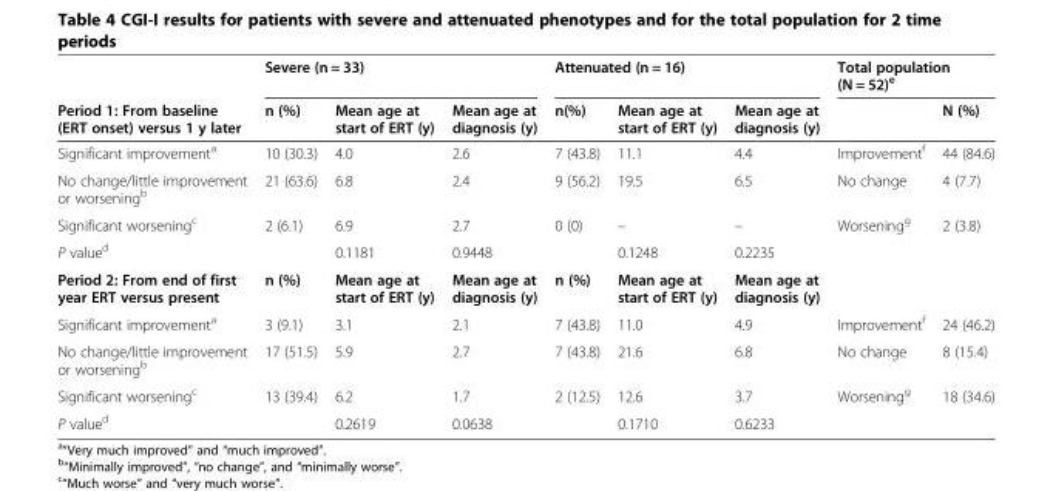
<table><thead><tr><td rowspan="2">Period 1: From baseline (ERT onset) versus 1 y later</td><td colspan="3">Severe (n = 33)</td><td colspan="3">Attenuated (n = 16)</td><td colspan="2">Total population (N = 52)<sup>e</sup></td></tr><tr><td>n (%)</td><td>Mean age at start of ERT (y)</td><td>Mean age at diagnosis (y)</td><td>n(%)</td><td>Mean age at start of ERT (y)</td><td>Mean age at diagnosis (y)</td><td></td><td>N (%)</td></tr></thead><tbody><tr><td>Significant improvement<sup>a</sup></td><td>10 (30.3)</td><td>4.0</td><td>2.6</td><td>7 (43.8)</td><td>11.1</td><td>4.4</td><td>Improvement<sup>f</sup></td><td>44 (84.6)</td></tr><tr><td>No change/little improvement or worsening<sup>b</sup></td><td>21 (63.6)</td><td>6.8</td><td>2.4</td><td>9 (56.2)</td><td>19.5</td><td>6.5</td><td>No change</td><td>4 (7.7)</td></tr><tr><td>Significant worsening<sup>c</sup></td><td>2 (6.1)</td><td>6.9</td><td>2.7</td><td>0 (0)</td><td>–</td><td>–</td><td>Worsening<sup>g</sup></td><td>2 (3.8)</td></tr><tr><td>P value<sup>d</sup></td><td></td><td>0.1181</td><td>0.9448</td><td></td><td>0.1248</td><td>0.2235</td><td></td><td></td></tr><tr><td>Period 2: From end of first year ERT versus present</td><td>n (%)</td><td>Mean age at start of ERT (y)</td><td>Mean age at diagnosis (y)</td><td>n (%)</td><td>Mean age at start of ERT (y)</td><td>Mean age at diagnosis (y)</td><td></td><td></td></tr><tr><td>Significant improvement<sup>a</sup></td><td>3 (9.1)</td><td>3.1</td><td>2.1</td><td>7 (43.8)</td><td>11.0</td><td>4.9</td><td>Improvement<sup>f</sup></td><td>24 (46.2)</td></tr><tr><td>No change/little improvement or worsening<sup>b</sup></td><td>17 (51.5)</td><td>5.9</td><td>2.7</td><td>7 (43.8)</td><td>21.6</td><td>6.8</td><td>No change</td><td>8 (15.4)</td></tr><tr><td>Significant worsening<sup>c</sup></td><td>13 (39.4)</td><td>6.2</td><td>1.7</td><td>2 (12.5)</td><td>12.6</td><td>3.7</td><td>Worsening<sup>g</sup></td><td>18 (34.6)</td></tr><tr><td>P value<sup>d</sup></td><td></td><td>0.2619</td><td>0.0638</td><td></td><td>0.1710</td><td>0.6233</td><td colspan="2"></td></tr></tbody></table>